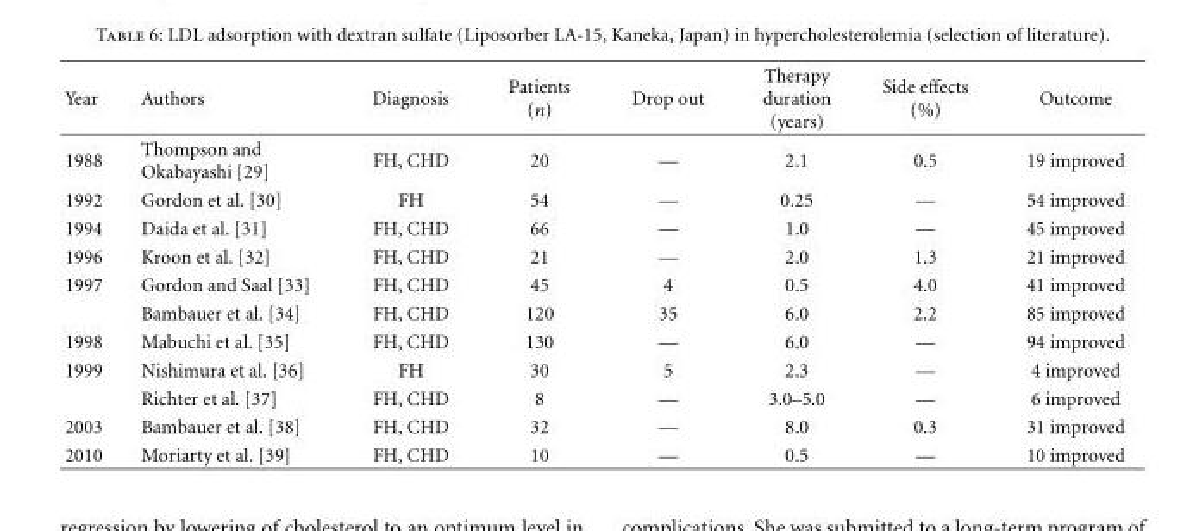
<table><thead><tr><td>Year</td><td>Authors</td><td>Diagnosis</td><td>Patients (n)</td><td>Drop out</td><td>Therapy duration (years)</td><td>Side effects (%)</td><td>Outcome</td></tr></thead><tbody><tr><td>1988</td><td>Thompson and Okabayashi [29]</td><td>FH, CHD</td><td>20</td><td>—</td><td>2.1</td><td>0.5</td><td>19 improved</td></tr><tr><td>1992</td><td>Gordon et al. [30]</td><td>FH</td><td>54</td><td>—</td><td>0.25</td><td>—</td><td>54 improved</td></tr><tr><td>1994</td><td>Daida et al. [31]</td><td>FH, CHD</td><td>66</td><td>—</td><td>1.0</td><td>—</td><td>45 improved</td></tr><tr><td>1996</td><td>Kroon et al. [32]</td><td>FH, CHD</td><td>21</td><td>—</td><td>2.0</td><td>1.3</td><td>21 improved</td></tr><tr><td rowspan="2">1997</td><td>Gordon and Saal [33]</td><td>FH, CHD</td><td>45</td><td>4</td><td>0.5</td><td>4.0</td><td>41 improved</td></tr><tr><td>Bambauer et al. [34]</td><td>FH, CHD</td><td>120</td><td>35</td><td>6.0</td><td>2.2</td><td>85 improved</td></tr><tr><td>1998</td><td>Mabuchi et al. [35]</td><td>FH, CHD</td><td>130</td><td>—</td><td>6.0</td><td>—</td><td>94 improved</td></tr><tr><td rowspan="2">1999</td><td>Nishimura et al. [36]</td><td>FH</td><td>30</td><td>5</td><td>2.3</td><td>—</td><td>4 improved</td></tr><tr><td>Richter et al. [37]</td><td>FH, CHD</td><td>8</td><td>—</td><td>3.0–5.0</td><td>—</td><td>6 improved</td></tr><tr><td>2003</td><td>Bambauer et al. [38]</td><td>FH, CHD</td><td>32</td><td>—</td><td>8.0</td><td>0.3</td><td>31 improved</td></tr><tr><td>2010</td><td>Moriarty et al. [39]</td><td>FH, CHD</td><td>10</td><td>—</td><td>0.5</td><td>—</td><td>10 improved</td></tr></tbody></table>